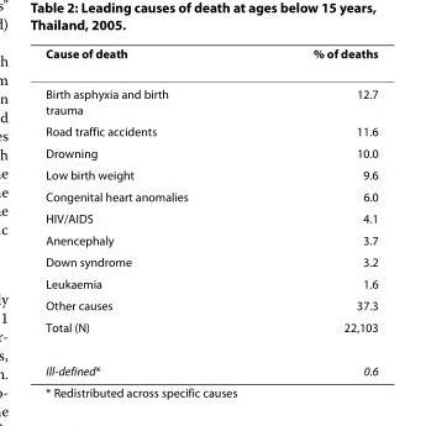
<table><thead><tr><td>Cause of death</td><td>% of deaths</td></tr></thead><tbody><tr><td>Birth asphyxia and birth trauma</td><td>12.7</td></tr><tr><td>Road traffic accidents</td><td>11.6</td></tr><tr><td>Drowning</td><td>10.0</td></tr><tr><td>Low birth weight</td><td>9.6</td></tr><tr><td>Congenital heart anomalies</td><td>6.0</td></tr><tr><td>HIV/AIDS</td><td>4.1</td></tr><tr><td>Anencephaly</td><td>3.7</td></tr><tr><td>Down syndrome</td><td>3.2</td></tr><tr><td>Leukaemia</td><td>1.6</td></tr><tr><td>Other causes</td><td>37.3</td></tr><tr><td>Total (N)</td><td>22,103</td></tr><tr><td>Ill-defined*</td><td>0.6</td></tr></tbody></table>